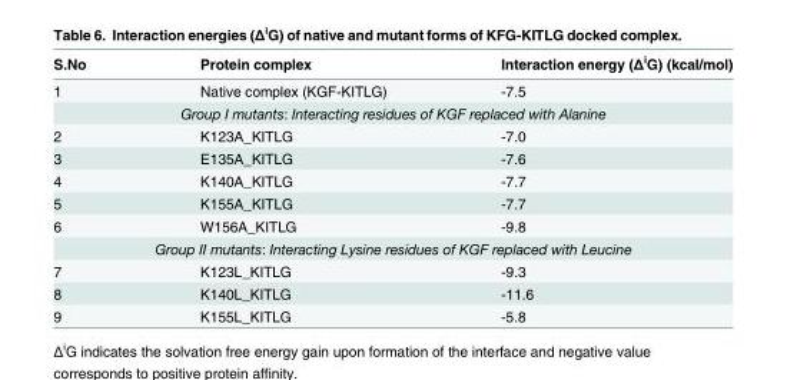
<table><thead><tr><td>S.No</td><td>Protein complex</td><td>Interaction energy (Δ<sup>i</sup>G) (kcal/mol)</td></tr></thead><tbody><tr><td>1</td><td>Native complex (KGF-KITLG)</td><td>-7.5</td></tr><tr><td colspan="3">Group I mutants: Interacting residues of KGF replaced with Alanine</td></tr><tr><td>2</td><td>K123A_KITLG</td><td>-7.0</td></tr><tr><td>3</td><td>E135A_KITLG</td><td>-7.6</td></tr><tr><td>4</td><td>K140A_KITLG</td><td>-7.7</td></tr><tr><td>5</td><td>K155A_KITLG</td><td>-7.7</td></tr><tr><td>6</td><td>W156A_KITLG</td><td>-9.8</td></tr><tr><td colspan="3">Group II mutants: Interacting Lysine residues of KGF replaced with Leucine</td></tr><tr><td>7</td><td>K123L_KITLG</td><td>-9.3</td></tr><tr><td>8</td><td>K140L_KITLG</td><td>-11.6</td></tr><tr><td>9</td><td>K155L_KITLG</td><td>-5.8</td></tr></tbody></table>